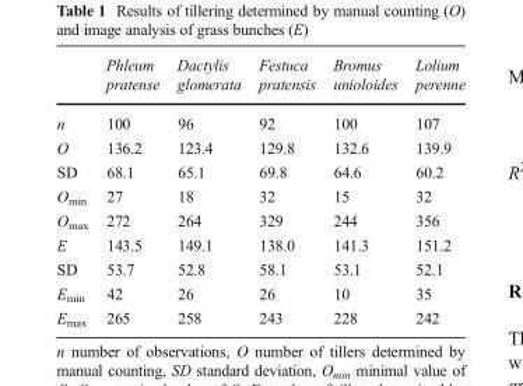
<table><thead><tr><td></td><td>Phleum pratense</td><td>Dactylis glomerata</td><td>Festuca pratensis</td><td>Bromus unioloides</td><td>Lolium perenne</td></tr></thead><tbody><tr><td>n</td><td>100</td><td>96</td><td>92</td><td>100</td><td>107</td></tr><tr><td>O</td><td>136.2</td><td>123.4</td><td>129.8</td><td>132.6</td><td>139.9</td></tr><tr><td>SD</td><td>68.1</td><td>65.1</td><td>69.8</td><td>64.6</td><td>60.2</td></tr><tr><td>O<sub>min</sub></td><td>27</td><td>18</td><td>32</td><td>15</td><td>32</td></tr><tr><td>O<sub>max</sub></td><td>272</td><td>264</td><td>329</td><td>244</td><td>356</td></tr><tr><td>E</td><td>143.5</td><td>149.1</td><td>138.0</td><td>141.3</td><td>151.2</td></tr><tr><td>SD</td><td>53.7</td><td>52.8</td><td>58.1</td><td>53.1</td><td>52.1</td></tr><tr><td>E<sub>min</sub></td><td>42</td><td>26</td><td>26</td><td>10</td><td>35</td></tr><tr><td>E<sub>max</sub></td><td>265</td><td>258</td><td>243</td><td>228</td><td>242</td></tr></tbody></table>